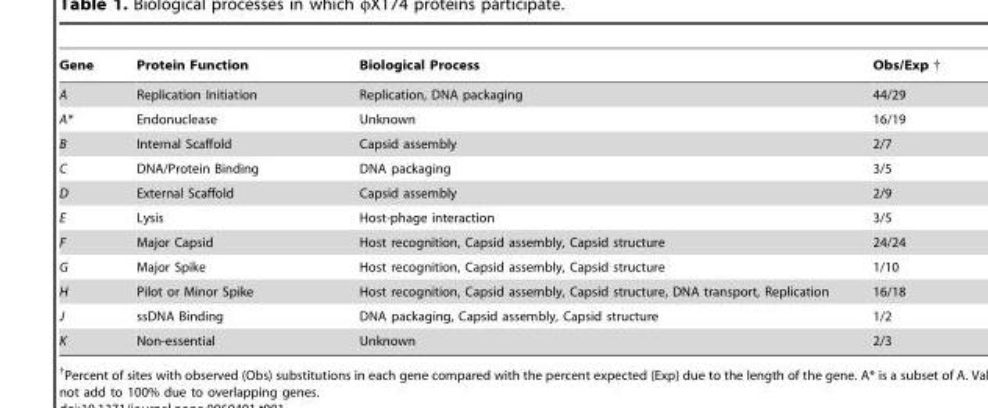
<table><thead><tr><td>Gene</td><td>Protein Function</td><td>Biological Process</td><td>Obs/Exp</td></tr></thead><tbody><tr><td>A</td><td>Replication Initiation</td><td>Replication, DNA packaging</td><td>44/29</td></tr><tr><td>A*</td><td>Endonuclease</td><td>Unknown</td><td>16/19</td></tr><tr><td>B</td><td>Internal Scaffold</td><td>Capsid assembly</td><td>2/7</td></tr><tr><td>C</td><td>DNA/Protein Binding</td><td>DNA packaging</td><td>3/5</td></tr><tr><td>D</td><td>External Scaffold</td><td>Capsid assembly</td><td>2/9</td></tr><tr><td>E</td><td>Lysis</td><td>Host-phage interaction</td><td>3/5</td></tr><tr><td>F</td><td>Major Capsid</td><td>Host recognition, Capsid assembly, Capsid structure</td><td>24/24</td></tr><tr><td>G</td><td>Major Spike</td><td>Host recognition, Capsid assembly, Capsid structure</td><td>1/10</td></tr><tr><td>H</td><td>Pilot or Minor Spike</td><td>Host recognition, Capsid assembly, Capsid structure, DNA transport, Replication</td><td>16/18</td></tr><tr><td>J</td><td>ssDNA Binding</td><td>DNA packaging, Capsid assembly, Capsid structure</td><td>1/2</td></tr><tr><td>K</td><td>Non-essential</td><td>Unknown</td><td>2/3</td></tr></tbody></table>